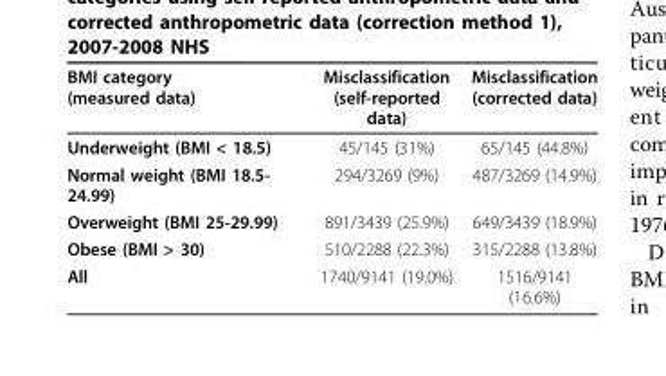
<table><thead><tr><td>BMI category (measured data)</td><td>Misclassification (self-reported data)</td><td>Misclassification (corrected data)</td></tr></thead><tbody><tr><td>Underweight (BMI &lt; 18.5)</td><td>45/145 (31%)</td><td>65/145 (44.8%)</td></tr><tr><td>Normal weight (BMI 18.5- 24.99)</td><td>294/3269 (9%)</td><td>487/3269 (14.9%)</td></tr><tr><td>Overweight (BMI 25-29.99)</td><td>891/3439 (25.9%)</td><td>649/3439 (18.9%)</td></tr><tr><td>Obese (BMI &gt; 30)</td><td>510/2288 (22.3%)</td><td>315/2288 (13.8%)</td></tr><tr><td>All</td><td>1740/9141 (19.0%)</td><td>1516/9141 (16.6%)</td></tr></tbody></table>